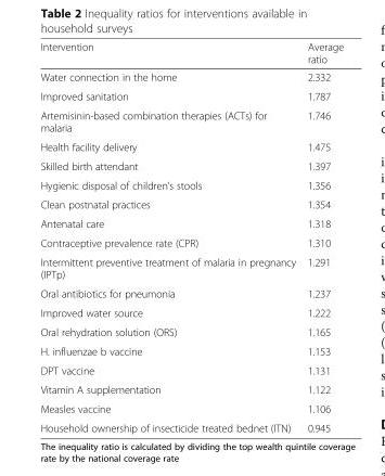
<table><thead><tr><td>Intervention</td><td>Average ratio</td></tr></thead><tbody><tr><td>Water connection in the home</td><td>2.332</td></tr><tr><td>Improved sanitation</td><td>1.787</td></tr><tr><td>Artemisinin-based combination therapies (ACTs) for malaria</td><td>1.746</td></tr><tr><td>Health facility delivery</td><td>1.475</td></tr><tr><td>Skilled birth attendant</td><td>1.397</td></tr><tr><td>Hygienic disposal of children’s stools</td><td>1.356</td></tr><tr><td>Clean postnatal practices</td><td>1.354</td></tr><tr><td>Antenatal care</td><td>1.318</td></tr><tr><td>Contraceptive prevalence rate (CPR)</td><td>1.310</td></tr><tr><td>Intermittent preventive treatment of malaria in pregnancy (IPTp)</td><td>1.291</td></tr><tr><td>Oral antibiotics for pneumonia</td><td>1.237</td></tr><tr><td>Improved water source</td><td>1.222</td></tr><tr><td>Oral rehydration solution (ORS)</td><td>1.165</td></tr><tr><td>H. influenzae b vaccine</td><td>1.153</td></tr><tr><td>DPT vaccine</td><td>1.131</td></tr><tr><td>Vitamin A supplementation</td><td>1.122</td></tr><tr><td>Measles vaccine</td><td>1.106</td></tr><tr><td>Household ownership of insecticide treated bednet (ITN)</td><td>0.945</td></tr></tbody></table>